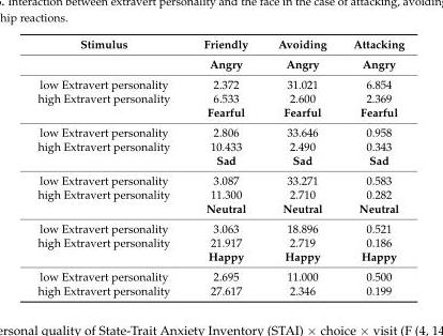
<table><thead><tr><td>Stimulus</td><td>Friendly</td><td>Avoiding</td><td>Attacking</td></tr></thead><tbody><tr><td></td><td>Angry</td><td>Angry</td><td>Angry</td></tr><tr><td>low Extravert personality</td><td>2.372</td><td>31.021</td><td>6.854</td></tr><tr><td rowspan="2">high Extravert personality</td><td>6.533</td><td>2.600</td><td>2.369</td></tr><tr><td>Fearful</td><td>Fearful</td><td>Fearful</td></tr><tr><td>low Extravert personality</td><td>2.806</td><td>33.646</td><td>0.958</td></tr><tr><td rowspan="2">high Extravert personality</td><td>10.433</td><td>2.490</td><td>0.343</td></tr><tr><td>Sad</td><td>Sad</td><td>Sad</td></tr><tr><td>low Extravert personality</td><td>3.087</td><td>33.271</td><td>0.583</td></tr><tr><td rowspan="2">high Extravert personality</td><td>11.300</td><td>2.710</td><td>0.282</td></tr><tr><td>Neutral</td><td>Neutral</td><td>Neutral</td></tr><tr><td>low Extravert personality</td><td>3.063</td><td>18.896</td><td>0.521</td></tr><tr><td rowspan="2">high Extravert personality</td><td>21.917</td><td>2.719</td><td>0.186</td></tr><tr><td>Happy</td><td>Happy</td><td>Happy</td></tr><tr><td>low Extravert personality</td><td>2.695</td><td>11.000</td><td>0.500</td></tr><tr><td>high Extravert personality</td><td>27.617</td><td>2.346</td><td>0.199</td></tr></tbody></table>